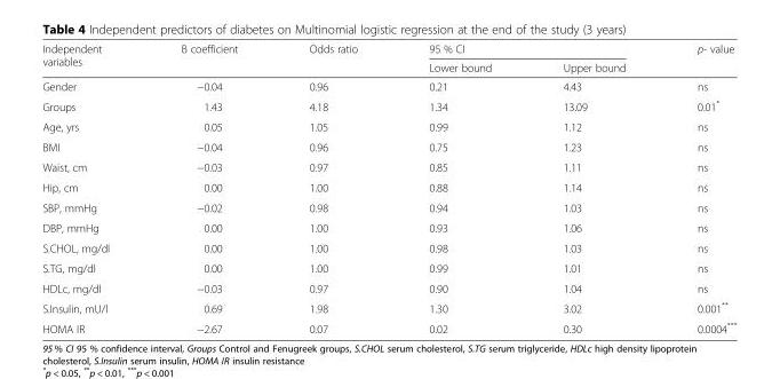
<table><thead><tr><td rowspan="2">Independent variables</td><td rowspan="2">B coefficient</td><td rowspan="2">Odds ratio</td><td colspan="2">95 % CI</td><td rowspan="2">p- value</td></tr><tr><td>Lower bound</td><td>Upper bound</td></tr></thead><tbody><tr><td>Gender</td><td>−0.04</td><td>0.96</td><td>0.21</td><td>4.43</td><td>ns</td></tr><tr><td>Groups</td><td>1.43</td><td>4.18</td><td>1.34</td><td>13.09</td><td>0.01*</td></tr><tr><td>Age, yrs</td><td>0.05</td><td>1.05</td><td>0.99</td><td>1.12</td><td>ns</td></tr><tr><td>BMI</td><td>−0.04</td><td>0.96</td><td>0.75</td><td>1.23</td><td>ns</td></tr><tr><td>Waist, cm</td><td>−0.03</td><td>0.97</td><td>0.85</td><td>1.11</td><td>ns</td></tr><tr><td>Hip, cm</td><td>0.00</td><td>1.00</td><td>0.88</td><td>1.14</td><td>ns</td></tr><tr><td>SBP, mmHg</td><td>−0.02</td><td>0.98</td><td>0.94</td><td>1.03</td><td>ns</td></tr><tr><td>DBP, mmHg</td><td>0.00</td><td>1.00</td><td>0.93</td><td>1.06</td><td>ns</td></tr><tr><td>S.CHOL, mg/dl</td><td>0.00</td><td>1.00</td><td>0.98</td><td>1.03</td><td>ns</td></tr><tr><td>S.TG, mg/dl</td><td>0.00</td><td>1.00</td><td>0.99</td><td>1.01</td><td>ns</td></tr><tr><td>HDLc, mg/dl</td><td>−0.03</td><td>0.97</td><td>0.90</td><td>1.04</td><td>ns</td></tr><tr><td>S.Insulin, mU/l</td><td>0.69</td><td>1.98</td><td>1.30</td><td>3.02</td><td>0.001**</td></tr><tr><td>HOMA IR</td><td>−2.67</td><td>0.07</td><td>0.02</td><td>0.30</td><td>0.0004***</td></tr></tbody></table>